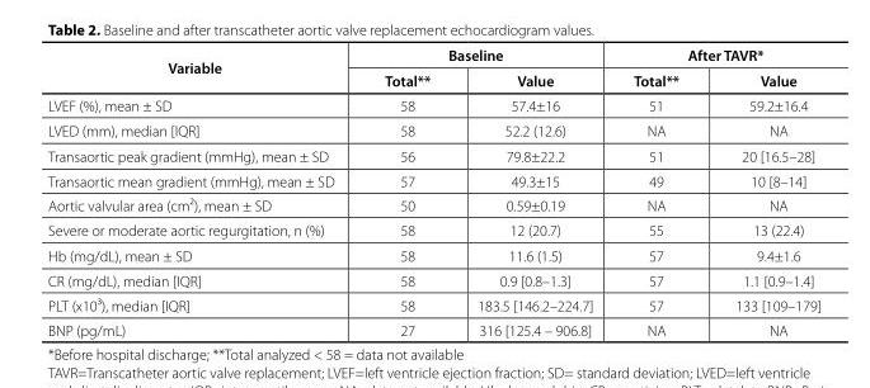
<table><thead><tr><td rowspan="2">Variable</td><td colspan="2">Baseline</td><td colspan="2">After TAVR*</td></tr><tr><td>Total**</td><td>Value</td><td>Total**</td><td>Value</td></tr></thead><tbody><tr><td>LVEF (%), mean ± SD</td><td>58</td><td>57.4±16</td><td>51</td><td>59.2±16.4</td></tr><tr><td>LVED (mm), median [IQR]</td><td>58</td><td>52.2 (12.6)</td><td>NA</td><td>NA</td></tr><tr><td>Transaortic peak gradient (mmHg), mean ± SD</td><td>56</td><td>79.8±22.2</td><td>51</td><td>20 [16.5–28]</td></tr><tr><td>Transaortic mean gradient (mmHg), mean ± SD</td><td>57</td><td>49.3±15</td><td>49</td><td>10 [8–14]</td></tr><tr><td>Aortic valvular area (cm²), mean ± SD</td><td>50</td><td>0.59±0.19</td><td>NA</td><td>NA</td></tr><tr><td>Severe or moderate aortic regurgitation, n (%)</td><td>58</td><td>12 (20.7)</td><td>55</td><td>13 (22.4)</td></tr><tr><td>Hb (mg/dL), mean ± SD</td><td>58</td><td>11.6 (1.5)</td><td>57</td><td>9.4±1.6</td></tr><tr><td>CR (mg/dL), median [IQR]</td><td>58</td><td>0.9 [0.8–1.3]</td><td>57</td><td>1.1 [0.9–1.4]</td></tr><tr><td>PLT (x10³), median [IQR]</td><td>58</td><td>183.5 [146.2–224.7]</td><td>57</td><td>133 [109–179]</td></tr><tr><td>BNP (pg/mL)</td><td>27</td><td>316 [125.4 – 906.8]</td><td>NA</td><td>NA</td></tr></tbody></table>